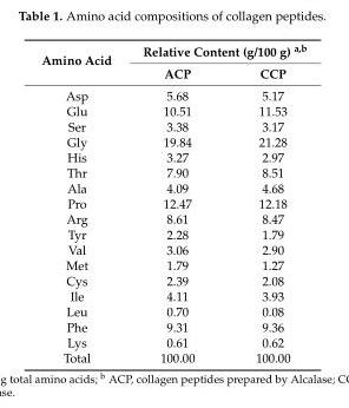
<table><thead><tr><td rowspan="2">Amino Acid</td><td colspan="2">Relative Content (g/100 g) <sup>a,b</sup></td></tr><tr><td>ACP</td><td>CCP</td></tr></thead><tbody><tr><td>Asp</td><td>5.68</td><td>5.17</td></tr><tr><td>Glu</td><td>10.51</td><td>11.53</td></tr><tr><td>Ser</td><td>3.38</td><td>3.17</td></tr><tr><td>Gly</td><td>19.84</td><td>21.28</td></tr><tr><td>His</td><td>3.27</td><td>2.97</td></tr><tr><td>Thr</td><td>7.90</td><td>8.51</td></tr><tr><td>Ala</td><td>4.09</td><td>4.68</td></tr><tr><td>Pro</td><td>12.47</td><td>12.18</td></tr><tr><td>Arg</td><td>8.61</td><td>8.47</td></tr><tr><td>Tyr</td><td>2.28</td><td>1.79</td></tr><tr><td>Val</td><td>3.06</td><td>2.90</td></tr><tr><td>Met</td><td>1.79</td><td>1.27</td></tr><tr><td>Cys</td><td>2.39</td><td>2.08</td></tr><tr><td>Ile</td><td>4.11</td><td>3.93</td></tr><tr><td>Leu</td><td>0.70</td><td>0.08</td></tr><tr><td>Phe</td><td>9.31</td><td>9.36</td></tr><tr><td>Lys</td><td>0.61</td><td>0.62</td></tr><tr><td>Total</td><td>100.00</td><td>100.00</td></tr></tbody></table>